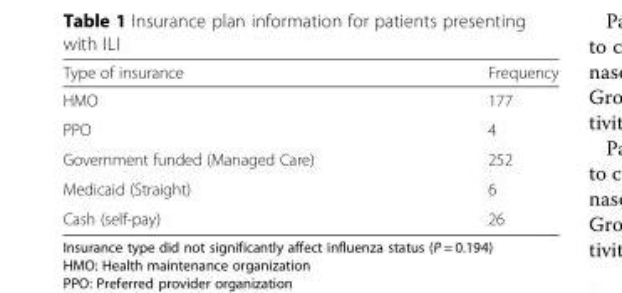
<table><thead><tr><td>Type of insurance</td><td>Frequency</td></tr></thead><tbody><tr><td>HMO</td><td>177</td></tr><tr><td>PPO</td><td>4</td></tr><tr><td>Government funded (Managed Care)</td><td>252</td></tr><tr><td>Medicaid (Straight)</td><td>6</td></tr><tr><td>Cash (self-pay)</td><td>26</td></tr></tbody></table>